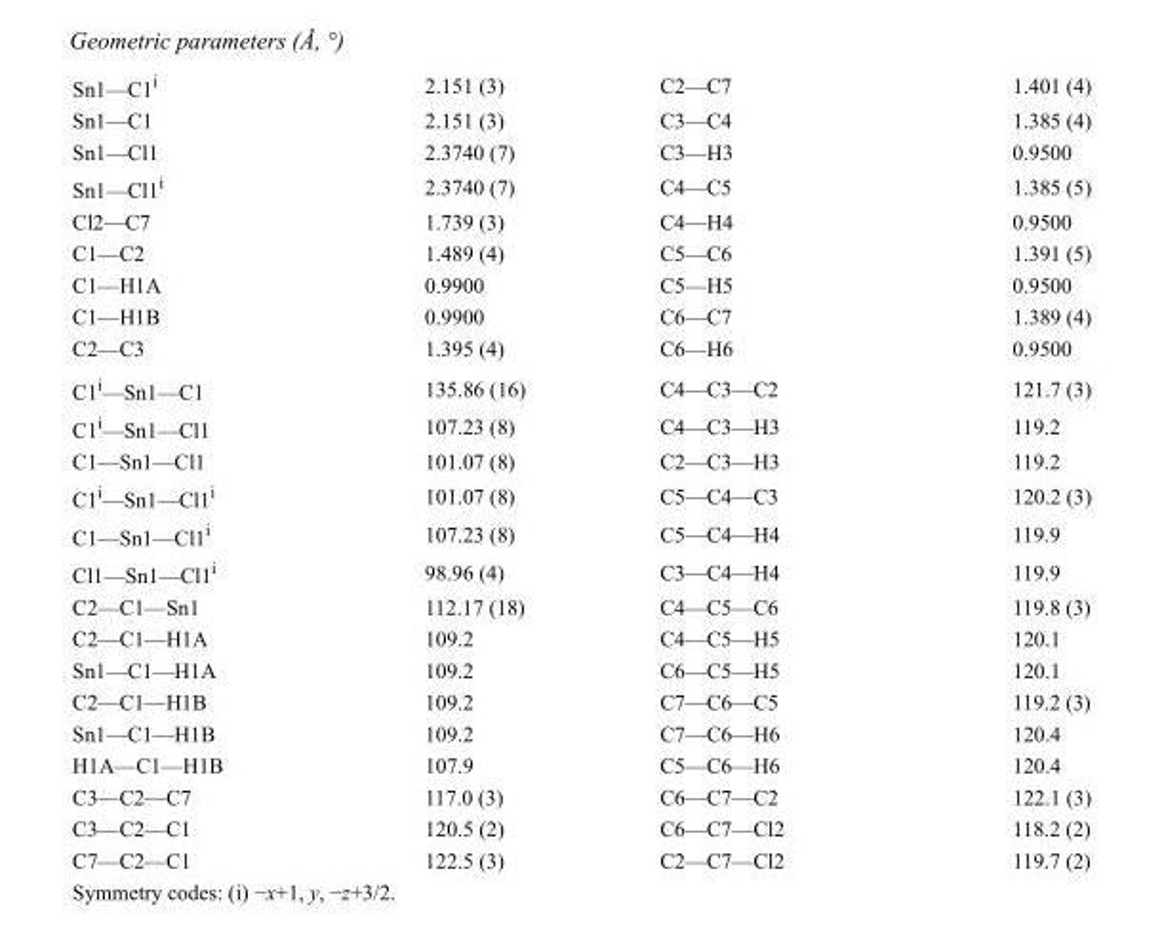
<table><tbody><tr><td>Sn1—C1<sup>i</sup></td><td>2.151 (3)</td><td>C2—C7</td><td>1.401 (4)</td></tr><tr><td>Sn1—C1</td><td>2.151 (3)</td><td>C3—C4</td><td>1.385 (4)</td></tr><tr><td>Sn1—Cl1</td><td>2.3740 (7)</td><td>C3—H3</td><td>0.9500</td></tr><tr><td>Sn1—Cl1<sup>i</sup></td><td>2.3740 (7)</td><td>C4—C5</td><td>1.385 (5)</td></tr><tr><td>Cl2—C7</td><td>1.739 (3)</td><td>C4—H4</td><td>0.9500</td></tr><tr><td>C1—C2</td><td>1.489 (4)</td><td>C5—C6</td><td>1.391 (5)</td></tr><tr><td>C1—H1A</td><td>0.9900</td><td>C5—H5</td><td>0.9500</td></tr><tr><td>C1—H1B</td><td>0.9900</td><td>C6—C7</td><td>1.389 (4)</td></tr><tr><td>C2—C3</td><td>1.395 (4)</td><td>C6—H6</td><td>0.9500</td></tr><tr><td>C1<sup>i</sup>—Sn1—C1</td><td>135.86 (16)</td><td>C4—C3—C2</td><td>121.7 (3)</td></tr><tr><td>C1<sup>i</sup>—Sn1—Cl1</td><td>107.23 (8)</td><td>C4—C3—H3</td><td>119.2</td></tr><tr><td>C1—Sn1—Cl1</td><td>101.07 (8)</td><td>C2—C3—H3</td><td>119.2</td></tr><tr><td>C1<sup>i</sup>—Sn1—Cl1<sup>i</sup></td><td>101.07 (8)</td><td>C5—C4—C3</td><td>120.2 (3)</td></tr><tr><td>C1—Sn1—Cl1<sup>i</sup></td><td>107.23 (8)</td><td>C5—C4—H4</td><td>119.9</td></tr><tr><td>Cl1—Sn1—Cl1<sup>i</sup></td><td>98.96 (4)</td><td>C3—C4—H4</td><td>119.9</td></tr><tr><td>C2—C1—Sn1</td><td>112.17 (18)</td><td>C4—C5—C6</td><td>119.8 (3)</td></tr><tr><td>C2—C1—H1A</td><td>109.2</td><td>C4—C5—H5</td><td>120.1</td></tr><tr><td>Sn1—C1—H1A</td><td>109.2</td><td>C6—C5—H5</td><td>120.1</td></tr><tr><td>C2—C1—H1B</td><td>109.2</td><td>C7—C6—C5</td><td>119.2 (3)</td></tr><tr><td>Sn1—C1—H1B</td><td>109.2</td><td>C7—C6—H6</td><td>120.4</td></tr><tr><td>H1A—C1—H1B</td><td>107.9</td><td>C5—C6—H6</td><td>120.4</td></tr><tr><td>C3—C2—C7</td><td>117.0 (3)</td><td>C6—C7—C2</td><td>122.1 (3)</td></tr><tr><td>C3—C2—C1</td><td>120.5 (2)</td><td>C6—C7—Cl2</td><td>118.2 (2)</td></tr><tr><td>C7—C2—C1</td><td>122.5 (3)</td><td>C2—C7—Cl2</td><td>119.7 (2)</td></tr></tbody></table>